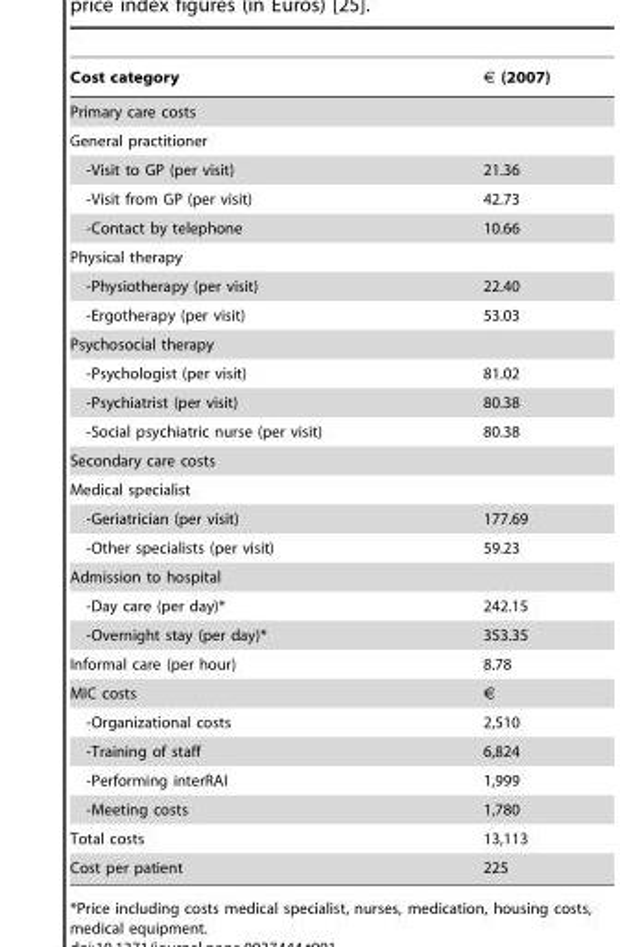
<table><thead><tr><td>Cost category</td><td>€ (2007)</td></tr></thead><tbody><tr><td colspan="2">Primary care costs</td></tr><tr><td colspan="2">General practitioner</td></tr><tr><td>-Visit to GP (per visit)</td><td>21.36</td></tr><tr><td>-Visit from GP (per visit)</td><td>42.73</td></tr><tr><td>-Contact by telephone</td><td>10.66</td></tr><tr><td colspan="2">Physical therapy</td></tr><tr><td>-Physiotherapy (per visit)</td><td>22.40</td></tr><tr><td>-Ergotherapy (per visit)</td><td>53.03</td></tr><tr><td colspan="2">Psychosocial therapy</td></tr><tr><td>-Psychologist (per visit)</td><td>81.02</td></tr><tr><td>-Psychiatrist (per visit)</td><td>80.38</td></tr><tr><td>-Social psychiatric nurse (per visit)</td><td>80.38</td></tr><tr><td colspan="2">Secondary care costs</td></tr><tr><td colspan="2">Medical specialist</td></tr><tr><td>-Geriatrician (per visit)</td><td>177.69</td></tr><tr><td>-Other specialists (per visit)</td><td>59.23</td></tr><tr><td colspan="2">Admission to hospital</td></tr><tr><td>-Day care (per day)*</td><td>242.15</td></tr><tr><td>-Overnight stay (per day)*</td><td>353.35</td></tr><tr><td>Informal care (per hour)</td><td>8.78</td></tr><tr><td>MIC costs</td><td>€</td></tr><tr><td>-Organizational costs</td><td>2,510</td></tr><tr><td>-Training of staff</td><td>6,824</td></tr><tr><td>-Performing interRAI</td><td>1,999</td></tr><tr><td>-Meeting costs</td><td>1,780</td></tr><tr><td>Total costs</td><td>13,113</td></tr><tr><td>Cost per patient</td><td>225</td></tr></tbody></table>